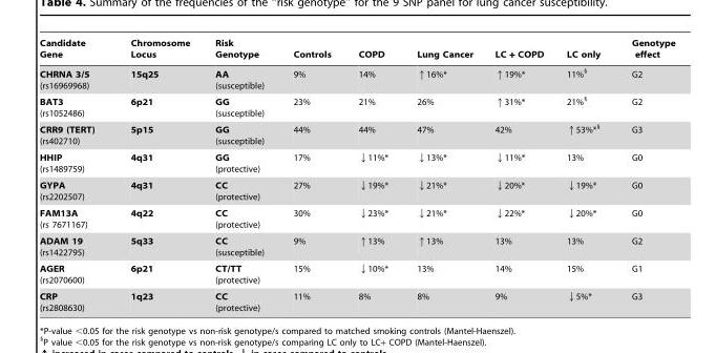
<table><thead><tr><td>Candidate Gene</td><td>Chromosome Locus</td><td>Risk Genotype</td><td>Controls</td><td>COPD</td><td>Lung Cancer</td><td>LC + COPD</td><td>LC only</td><td>Genotype effect</td></tr></thead><tbody><tr><td>CHRNA 3/5 (rs16969968)</td><td>15q25</td><td>AA (susceptible)</td><td>9%</td><td>14%</td><td>↑16%*</td><td>↑19%*</td><td>11%§</td><td>G2</td></tr><tr><td>BAT3 (rs1052486)</td><td>6p21</td><td>GG (susceptible)</td><td>23%</td><td>21%</td><td>26%</td><td>↑31%*</td><td>21%§</td><td>G2</td></tr><tr><td>CRR9 (TERT) (rs402710)</td><td>5p15</td><td>GG (susceptible)</td><td>44%</td><td>44%</td><td>47%</td><td>42%</td><td>↑53%*§</td><td>G3</td></tr><tr><td>HHIP (rs1489759)</td><td>4q31</td><td>GG (protective)</td><td>17%</td><td>↓11%*</td><td>↓13%*</td><td>↓11%*</td><td>13%</td><td>G0</td></tr><tr><td>GYPA (rs2202507)</td><td>4q31</td><td>CC (protective)</td><td>27%</td><td>↓19%*</td><td>↓21%*</td><td>↓20%*</td><td>↓19%*</td><td>G0</td></tr><tr><td>FAM13A (rs 7671167)</td><td>4q22</td><td>CC (protective)</td><td>30%</td><td>↓23%*</td><td>↓21%*</td><td>↓22%*</td><td>↓20%*</td><td>G0</td></tr><tr><td>ADAM 19 (rs1422795)</td><td>5q33</td><td>CC (susceptible)</td><td>9%</td><td>↑13%</td><td>↑13%</td><td>13%</td><td>13%</td><td>G2</td></tr><tr><td>AGER (rs2070600)</td><td>6p21</td><td>CT/TT (protective)</td><td>15%</td><td>↓10%*</td><td>13%</td><td>14%</td><td>15%</td><td>G1</td></tr><tr><td>CRP (rs2808630)</td><td>1q23</td><td>CC (protective)</td><td>11%</td><td>8%</td><td>8%</td><td>9%</td><td>↓5%*</td><td>G3</td></tr></tbody></table>